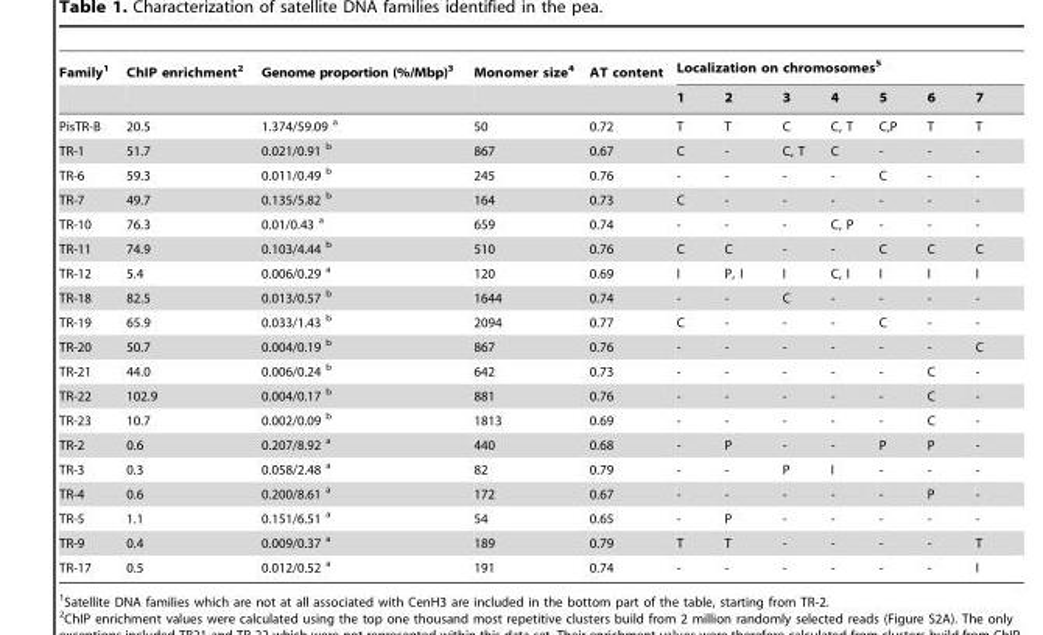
<table><thead><tr><td rowspan="2">Family<sup>1</sup></td><td rowspan="2">ChIP enrichment<sup>2</sup></td><td rowspan="2">Genome proportion (%/Mbp)<sup>3</sup></td><td rowspan="2">Monomer size<sup>4</sup></td><td rowspan="2">AT content</td><td colspan="7">Localization on chromosomes<sup>5</sup></td></tr><tr><td>1</td><td>2</td><td>3</td><td>4</td><td>5</td><td>6</td><td>7</td></tr></thead><tbody><tr><td>PisTR-B</td><td>20.5</td><td>1.374/59.09 <sup>a</sup></td><td>50</td><td>0.72</td><td>T</td><td>T</td><td>C</td><td>C, T</td><td>C,P</td><td>T</td><td>T</td></tr><tr><td>TR-1</td><td>51.7</td><td>0.021/0.91 <sup>b</sup></td><td>867</td><td>0.67</td><td>C</td><td>-</td><td>C, T</td><td>C</td><td>-</td><td>-</td><td>-</td></tr><tr><td>TR-6</td><td>59.3</td><td>0.011/0.49 <sup>b</sup></td><td>245</td><td>0.76</td><td>-</td><td>-</td><td>-</td><td>-</td><td>C</td><td>-</td><td>-</td></tr><tr><td>TR-7</td><td>49.7</td><td>0.135/5.82 <sup>b</sup></td><td>164</td><td>0.73</td><td>C</td><td>-</td><td>-</td><td>-</td><td>-</td><td>-</td><td>-</td></tr><tr><td>TR-10</td><td>76.3</td><td>0.01/0.43 <sup>a</sup></td><td>659</td><td>0.74</td><td>-</td><td>-</td><td>-</td><td>C, P</td><td>-</td><td>-</td><td>-</td></tr><tr><td>TR-11</td><td>74.9</td><td>0.103/4.44 <sup>b</sup></td><td>510</td><td>0.76</td><td>C</td><td>C</td><td>-</td><td>-</td><td>C</td><td>C</td><td>C</td></tr><tr><td>TR-12</td><td>5.4</td><td>0.006/0.29 <sup>a</sup></td><td>120</td><td>0.69</td><td>I</td><td>P, I</td><td>I</td><td>C, I</td><td>I</td><td>I</td><td>I</td></tr><tr><td>TR-18</td><td>82.5</td><td>0.013/0.57 <sup>b</sup></td><td>1644</td><td>0.74</td><td>-</td><td>-</td><td>C</td><td>-</td><td>-</td><td>-</td><td>-</td></tr><tr><td>TR-19</td><td>65.9</td><td>0.033/1.43 <sup>b</sup></td><td>2094</td><td>0.77</td><td>C</td><td>-</td><td>-</td><td>-</td><td>C</td><td>-</td><td>-</td></tr><tr><td>TR-20</td><td>50.7</td><td>0.004/0.19 <sup>b</sup></td><td>867</td><td>0.76</td><td>-</td><td>-</td><td>-</td><td>-</td><td>-</td><td>-</td><td>C</td></tr><tr><td>TR-21</td><td>44.0</td><td>0.006/0.24 <sup>b</sup></td><td>642</td><td>0.73</td><td>-</td><td>-</td><td>-</td><td>-</td><td>-</td><td>C</td><td>-</td></tr><tr><td>TR-22</td><td>102.9</td><td>0.004/0.17 <sup>b</sup></td><td>881</td><td>0.76</td><td>-</td><td>-</td><td>-</td><td>-</td><td>-</td><td>C</td><td>-</td></tr><tr><td>TR-23</td><td>10.7</td><td>0.002/0.09 <sup>b</sup></td><td>1813</td><td>0.69</td><td>-</td><td>-</td><td>-</td><td>-</td><td>-</td><td>C</td><td>-</td></tr><tr><td>TR-2</td><td>0.6</td><td>0.207/8.92 <sup>a</sup></td><td>440</td><td>0.68</td><td>-</td><td>P</td><td>-</td><td>-</td><td>P</td><td>P</td><td>-</td></tr><tr><td>TR-3</td><td>0.3</td><td>0.058/2.48 <sup>a</sup></td><td>82</td><td>0.79</td><td>-</td><td>-</td><td>P</td><td>I</td><td>-</td><td>-</td><td>-</td></tr><tr><td>TR-4</td><td>0.6</td><td>0.200/8.61 <sup>a</sup></td><td>172</td><td>0.67</td><td>-</td><td>-</td><td>-</td><td>-</td><td>-</td><td>P</td><td>-</td></tr><tr><td>TR-5</td><td>1.1</td><td>0.151/6.51 <sup>a</sup></td><td>54</td><td>0.65</td><td>-</td><td>P</td><td>-</td><td>-</td><td>-</td><td>-</td><td>-</td></tr><tr><td>TR-9</td><td>0.4</td><td>0.009/0.37 <sup>a</sup></td><td>189</td><td>0.79</td><td>T</td><td>T</td><td>-</td><td>-</td><td>-</td><td>-</td><td>T</td></tr><tr><td>TR-17</td><td>0.5</td><td>0.012/0.52 <sup>a</sup></td><td>191</td><td>0.74</td><td>-</td><td>-</td><td>-</td><td>-</td><td>-</td><td>-</td><td>I</td></tr></tbody></table>